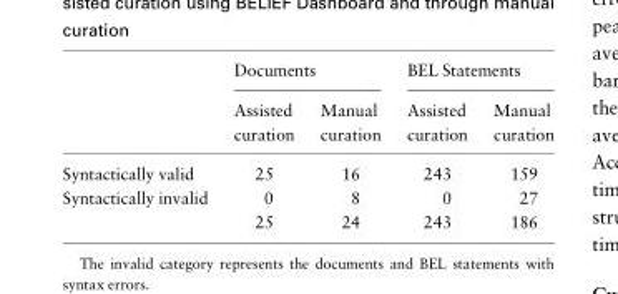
<table><thead><tr><td rowspan="2"></td><td colspan="2">Documents</td><td colspan="2">BEL Statements</td></tr><tr><td>Assisted curation</td><td>Manual curation</td><td>Assisted curation</td><td>Manual curation</td></tr></thead><tbody><tr><td>Syntactically valid</td><td>25</td><td>16</td><td>243</td><td>159</td></tr><tr><td rowspan="2">Syntactically invalid</td><td>0</td><td>8</td><td>0</td><td>27</td></tr><tr><td>25</td><td>24</td><td>243</td><td>186</td></tr></tbody></table>